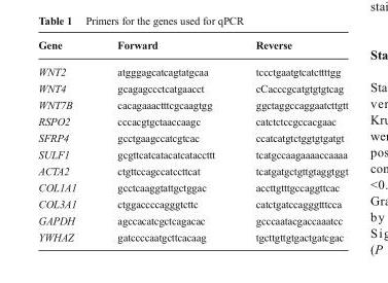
<table><thead><tr><td>Gene</td><td>Forward</td><td>Reverse</td></tr></thead><tbody><tr><td>WNT2</td><td>atgggagcatcagtatgcaa</td><td>tccctgaatgtcatcttttgg</td></tr><tr><td>WNT4</td><td>gcagagccctcatgaacct</td><td>cCacccgcatgtgtgtcag</td></tr><tr><td>WNT7B</td><td>cacagaaactttcgcaagtgg</td><td>ggctaggccaggaatcttgtt</td></tr><tr><td>RSPO2</td><td>cccacgtgctaaccaagc</td><td>catctctccgccacgaac</td></tr><tr><td>SFRP4</td><td>gcctgaagccatcgtcac</td><td>ccatcatgtctggtgtgatgt</td></tr><tr><td>SULF1</td><td>gcgttcatcatacatcataccttt</td><td>tcatgccaagaaaaccaaaa</td></tr><tr><td>ACTA2</td><td>ctgttccagccatccttcat</td><td>tcatgatgctgttgtaggtggt</td></tr><tr><td>COL1A1</td><td>gcctcaaggtattgctggac</td><td>accttgtttgccaggttcac</td></tr><tr><td>COL3A1</td><td>ctggaccccagggtcttc</td><td>catctgatccagggtttcca</td></tr><tr><td>GAPDH</td><td>agccacatcgctcagacac</td><td>gcccaatacgaccaaatcc</td></tr><tr><td>YWHAZ</td><td>gatccccaatgcttcacaag</td><td>tgcttgttgtgactgatcgac</td></tr></tbody></table>